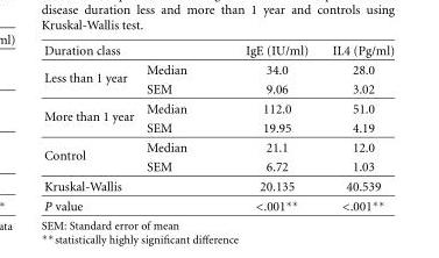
<table><thead><tr><td>Duration class</td><td></td><td>IgE (IU/ml)</td><td>IL4 (Pg/ml)</td></tr></thead><tbody><tr><td rowspan="2">Less than 1 year</td><td>Median</td><td>34.0</td><td>28.0</td></tr><tr><td>SEM</td><td>9.06</td><td>3.02</td></tr><tr><td rowspan="2">More than 1 year</td><td>Median</td><td>112.0</td><td>51.0</td></tr><tr><td>SEM</td><td>19.95</td><td>4.19</td></tr><tr><td rowspan="2">Control</td><td>Median</td><td>21.1</td><td>12.0</td></tr><tr><td>SEM</td><td>6.72</td><td>1.03</td></tr><tr><td>Kruskal-Wallis</td><td></td><td>20.135</td><td>40.539</td></tr><tr><td>P value</td><td></td><td>&lt;.001∗∗</td><td>&lt;.001∗∗</td></tr></tbody></table>